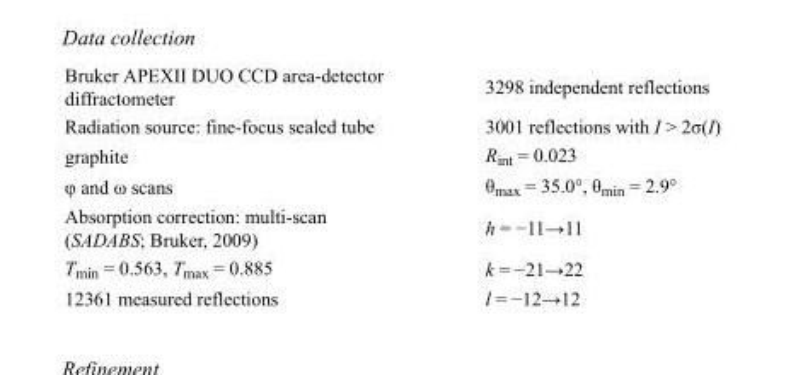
<table><tbody><tr><td>Bruker APEXII DUO CCD area-detector diffractometer</td><td>3298 independent reflections</td></tr><tr><td>Radiation source: fine-focus sealed tube</td><td>3001 reflections with I &gt; 2σ(I)</td></tr><tr><td>graphite</td><td>R<sub>int</sub> = 0.023</td></tr><tr><td>φ and ω scans</td><td>θ<sub>max</sub> = 35.0°, θ<sub>min</sub> = 2.9°</td></tr><tr><td>Absorption correction: multi-scan (SADABS; Bruker, 2009)</td><td>h = −11→11</td></tr><tr><td>T<sub>min</sub> = 0.563, T<sub>max</sub> = 0.885</td><td>k = −21→22</td></tr><tr><td>12361 measured reflections</td><td>l = −12→12</td></tr></tbody></table>